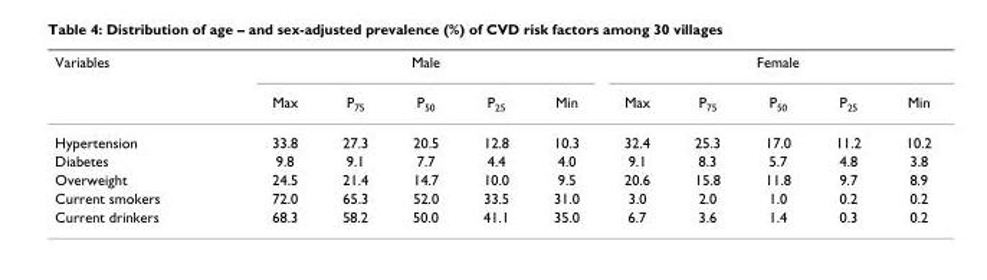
<table><thead><tr><td rowspan="2">Variables</td><td colspan="5">Male</td><td colspan="5">Female</td></tr><tr><td>Max</td><td>P<sub>75</sub></td><td>P<sub>50</sub></td><td>P<sub>25</sub></td><td>Min</td><td>Max</td><td>P<sub>75</sub></td><td>P<sub>50</sub></td><td>P<sub>25</sub></td><td>Min</td></tr></thead><tbody><tr><td>Hypertension</td><td>33.8</td><td>27.3</td><td>20.5</td><td>12.8</td><td>10.3</td><td>32.4</td><td>25.3</td><td>17.0</td><td>11.2</td><td>10.2</td></tr><tr><td>Diabetes</td><td>9.8</td><td>9.1</td><td>7.7</td><td>4.4</td><td>4.0</td><td>9.1</td><td>8.3</td><td>5.7</td><td>4.8</td><td>3.8</td></tr><tr><td>Overweight</td><td>24.5</td><td>21.4</td><td>14.7</td><td>10.0</td><td>9.5</td><td>20.6</td><td>15.8</td><td>11.8</td><td>9.7</td><td>8.9</td></tr><tr><td>Current smokers</td><td>72.0</td><td>65.3</td><td>52.0</td><td>33.5</td><td>31.0</td><td>3.0</td><td>2.0</td><td>1.0</td><td>0.2</td><td>0.2</td></tr><tr><td>Current drinkers</td><td>68.3</td><td>58.2</td><td>50.0</td><td>41.1</td><td>35.0</td><td>6.7</td><td>3.6</td><td>1.4</td><td>0.3</td><td>0.2</td></tr></tbody></table>